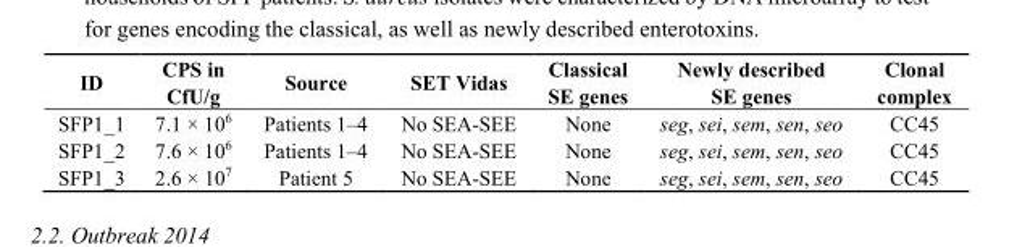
<table><thead><tr><td>ID</td><td>CPS in CfU/g</td><td>Source</td><td>SET Vidas</td><td>Classical SE genes</td><td>Newly described SE genes</td><td>Clonal complex</td></tr></thead><tbody><tr><td>SFP1_1</td><td>7.1 × 10<sup>6</sup></td><td>Patients 1–4</td><td>No SEA-SEE</td><td>None</td><td>seg, sei, sem, sen, seo</td><td>CC45</td></tr><tr><td>SFP1_2</td><td>7.6 × 10<sup>6</sup></td><td>Patients 1–4</td><td>No SEA-SEE</td><td>None</td><td>seg, sei, sem, sen, seo</td><td>CC45</td></tr><tr><td>SFP1_3</td><td>2.6 × 10<sup>7</sup></td><td>Patient 5</td><td>No SEA-SEE</td><td>None</td><td>seg, sei, sem, sen, seo</td><td>CC45</td></tr></tbody></table>